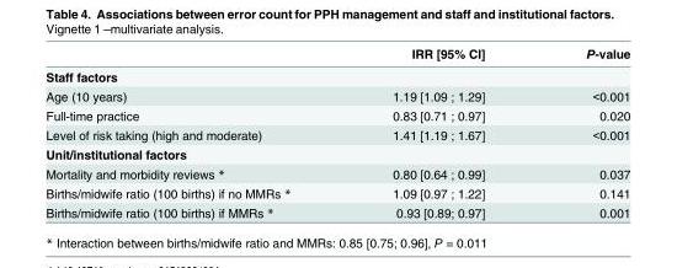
<table><thead><tr><td></td><td>IRR [95% CI]</td><td>P-value</td></tr></thead><tbody><tr><td colspan="3">Staff factors</td></tr><tr><td>Age (10 years)</td><td>1.19 [1.09 ; 1.29]</td><td>&lt;0.001</td></tr><tr><td>Full-time practice</td><td>0.83 [0.71 ; 0.97]</td><td>0.020</td></tr><tr><td>Level of risk taking (high and moderate)</td><td>1.41 [1.19 ; 1.67]</td><td>&lt;0.001</td></tr><tr><td colspan="3">Unit/institutional factors</td></tr><tr><td>Mortality and morbidity reviews *</td><td>0.80 [0.64 ; 0.99]</td><td>0.037</td></tr><tr><td>Births/midwife ratio (100 births) if no MMRs *</td><td>1.09 [0.97 ; 1.22]</td><td>0.141</td></tr><tr><td>Births/midwife ratio (100 births) if MMRs *</td><td>0.93 [0.89; 0.97]</td><td>0.001</td></tr></tbody></table>